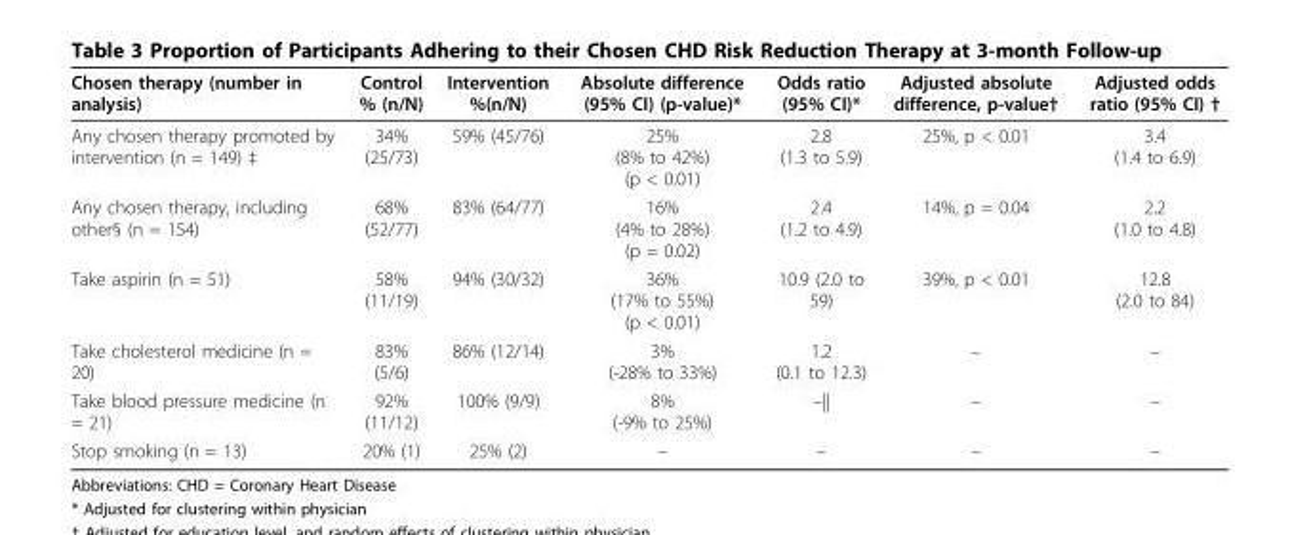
<table><thead><tr><td>Chosen therapy (number in analysis)</td><td>Control % (n/N)</td><td>Intervention %(n/N)</td><td>Absolute difference (95% CI) (p-value)*</td><td>Odds ratio (95% CI)*</td><td>Adjusted absolute difference, p-value†</td><td>Adjusted odds ratio (95% CI) †</td></tr></thead><tbody><tr><td>Any chosen therapy promoted by intervention (n = 149) ‡</td><td>34% (25/73)</td><td>59% (45/76)</td><td>25% (8% to 42%) (p &lt; 0.01)</td><td>2.8 (1.3 to 5.9)</td><td>25%, p &lt; 0.01</td><td>3.4 (1.4 to 6.9)</td></tr><tr><td>Any chosen therapy, including other§ (n = 154)</td><td>68% (52/77)</td><td>83% (64/77)</td><td>16% (4% to 28%) (p = 0.02)</td><td>2.4 (1.2 to 4.9)</td><td>14%, p = 0.04</td><td>2.2 (1.0 to 4.8)</td></tr><tr><td>Take aspirin (n = 51)</td><td>58% (11/19)</td><td>94% (30/32)</td><td>36% (17% to 55%) (p &lt; 0.01)</td><td>10.9 (2.0 to 59)</td><td>39%, p &lt; 0.01</td><td>12.8 (2.0 to 84)</td></tr><tr><td>Take cholesterol medicine (n = 20)</td><td>83% (5/6)</td><td>86% (12/14)</td><td>3% (-28% to 33%)</td><td>1.2 (0.1 to 12.3)</td><td>–</td><td>–</td></tr><tr><td>Take blood pressure medicine (n = 21)</td><td>92% (11/12)</td><td>100% (9/9)</td><td>8% (-9% to 25%)</td><td>–||</td><td>–</td><td>–</td></tr><tr><td>Stop smoking (n = 13)</td><td>20% (1)</td><td>25% (2)</td><td>–</td><td>–</td><td>–</td><td>–</td></tr></tbody></table>